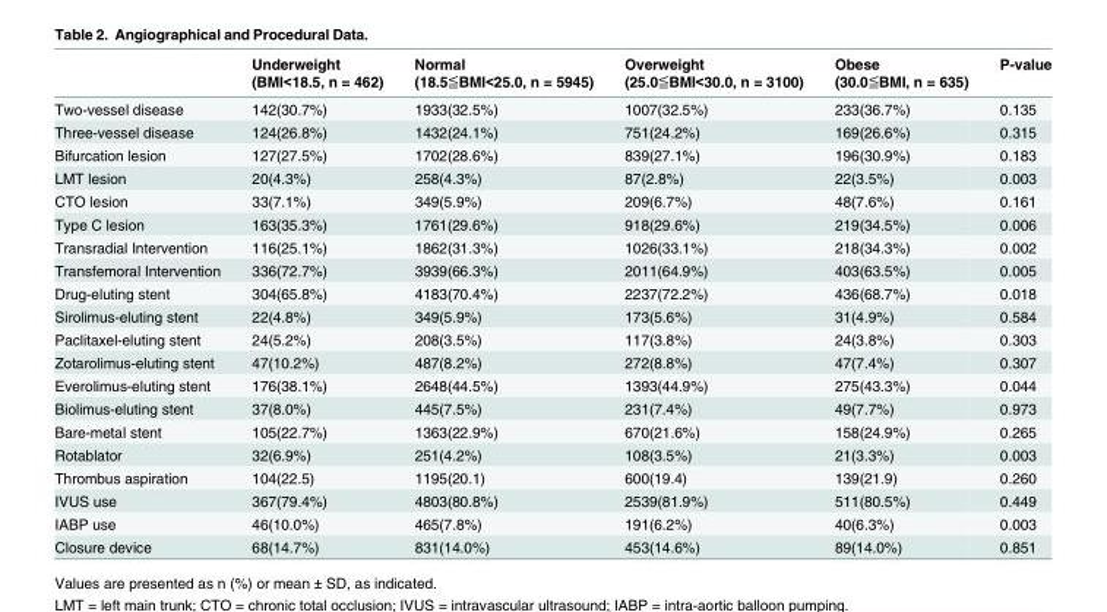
<table><thead><tr><td></td><td>Underweight (BMI&lt;18.5, n = 462)</td><td>Normal (18.5≦BMI&lt;25.0, n = 5945)</td><td>Overweight (25.0≦BMI&lt;30.0, n = 3100)</td><td>Obese (30.0≦BMI, n = 635)</td><td>P-value</td></tr></thead><tbody><tr><td>Two-vessel disease</td><td>142(30.7%)</td><td>1933(32.5%)</td><td>1007(32.5%)</td><td>233(36.7%)</td><td>0.135</td></tr><tr><td>Three-vessel disease</td><td>124(26.8%)</td><td>1432(24.1%)</td><td>751(24.2%)</td><td>169(26.6%)</td><td>0.315</td></tr><tr><td>Bifurcation lesion</td><td>127(27.5%)</td><td>1702(28.6%)</td><td>839(27.1%)</td><td>196(30.9%)</td><td>0.183</td></tr><tr><td>LMT lesion</td><td>20(4.3%)</td><td>258(4.3%)</td><td>87(2.8%)</td><td>22(3.5%)</td><td>0.003</td></tr><tr><td>CTO lesion</td><td>33(7.1%)</td><td>349(5.9%)</td><td>209(6.7%)</td><td>48(7.6%)</td><td>0.161</td></tr><tr><td>Type C lesion</td><td>163(35.3%)</td><td>1761(29.6%)</td><td>918(29.6%)</td><td>219(34.5%)</td><td>0.006</td></tr><tr><td>Transradial Intervention</td><td>116(25.1%)</td><td>1862(31.3%)</td><td>1026(33.1%)</td><td>218(34.3%)</td><td>0.002</td></tr><tr><td>Transfemoral Intervention</td><td>336(72.7%)</td><td>3939(66.3%)</td><td>2011(64.9%)</td><td>403(63.5%)</td><td>0.005</td></tr><tr><td>Drug-eluting stent</td><td>304(65.8%)</td><td>4183(70.4%)</td><td>2237(72.2%)</td><td>436(68.7%)</td><td>0.018</td></tr><tr><td>Sirolimus-eluting stent</td><td>22(4.8%)</td><td>349(5.9%)</td><td>173(5.6%)</td><td>31(4.9%)</td><td>0.584</td></tr><tr><td>Paclitaxel-eluting stent</td><td>24(5.2%)</td><td>208(3.5%)</td><td>117(3.8%)</td><td>24(3.8%)</td><td>0.303</td></tr><tr><td>Zotarolimus-eluting stent</td><td>47(10.2%)</td><td>487(8.2%)</td><td>272(8.8%)</td><td>47(7.4%)</td><td>0.307</td></tr><tr><td>Everolimus-eluting stent</td><td>176(38.1%)</td><td>2648(44.5%)</td><td>1393(44.9%)</td><td>275(43.3%)</td><td>0.044</td></tr><tr><td>Biolimus-eluting stent</td><td>37(8.0%)</td><td>445(7.5%)</td><td>231(7.4%)</td><td>49(7.7%)</td><td>0.973</td></tr><tr><td>Bare-metal stent</td><td>105(22.7%)</td><td>1363(22.9%)</td><td>670(21.6%)</td><td>158(24.9%)</td><td>0.265</td></tr><tr><td>Rotablator</td><td>32(6.9%)</td><td>251(4.2%)</td><td>108(3.5%)</td><td>21(3.3%)</td><td>0.003</td></tr><tr><td>Thrombus aspiration</td><td>104(22.5)</td><td>1195(20.1)</td><td>600(19.4)</td><td>139(21.9)</td><td>0.260</td></tr><tr><td>IVUS use</td><td>367(79.4%)</td><td>4803(80.8%)</td><td>2539(81.9%)</td><td>511(80.5%)</td><td>0.449</td></tr><tr><td>IABP use</td><td>46(10.0%)</td><td>465(7.8%)</td><td>191(6.2%)</td><td>40(6.3%)</td><td>0.003</td></tr><tr><td>Closure device</td><td>68(14.7%)</td><td>831(14.0%)</td><td>453(14.6%)</td><td>89(14.0%)</td><td>0.851</td></tr></tbody></table>